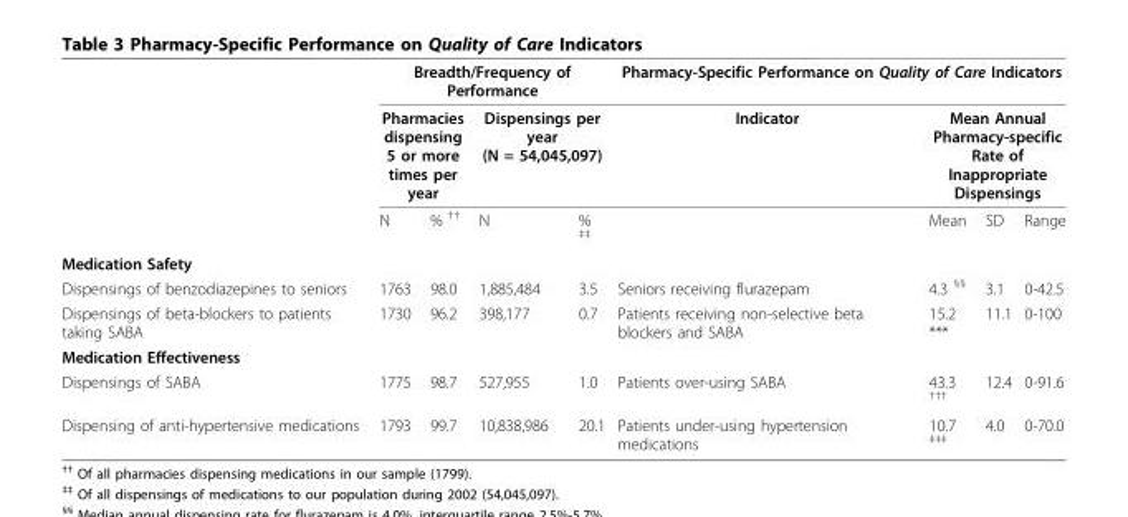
<table><thead><tr><td rowspan="3"></td><td colspan="4">Breadth/Frequency of Performance</td><td colspan="4">Pharmacy-Specific Performance on Quality of Care Indicators</td></tr><tr><td colspan="2">Pharmacies dispensing 5 or more times per year</td><td colspan="2">Dispensings per year (N = 54,045,097)</td><td rowspan="2">Indicator</td><td colspan="3">Mean Annual Pharmacy-specific Rate of Inappropriate Dispensings</td></tr><tr><td>N</td><td>% <sup>††</sup></td><td>N</td><td>% <sup>‡‡</sup></td><td>Mean</td><td>SD</td><td>Range</td></tr></thead><tbody><tr><td colspan="9">Medication Safety</td></tr><tr><td>Dispensings of benzodiazepines to seniors</td><td>1763</td><td>98.0</td><td>1,885,484</td><td>3.5</td><td>Seniors receiving flurazepam</td><td>4.3 <sup>§§</sup></td><td>3.1</td><td>0-42.5</td></tr><tr><td>Dispensings of beta-blockers to patients taking SABA</td><td>1730</td><td>96.2</td><td>398,177</td><td>0.7</td><td>Patients receiving non-selective beta blockers and SABA</td><td>15.2 ***</td><td>11.1</td><td>0-100</td></tr><tr><td colspan="9">Medication Effectiveness</td></tr><tr><td>Dispensings of SABA</td><td>1775</td><td>98.7</td><td>527,955</td><td>1.0</td><td>Patients over-using SABA</td><td>43.3 <sup>†††</sup></td><td>12.4</td><td>0-91.6</td></tr><tr><td>Dispensing of anti-hypertensive medications</td><td>1793</td><td>99.7</td><td>10,838,986</td><td>20.1</td><td>Patients under-using hypertension medications</td><td>10.7 <sup>‡‡‡</sup></td><td>4.0</td><td>0-70.0</td></tr></tbody></table>